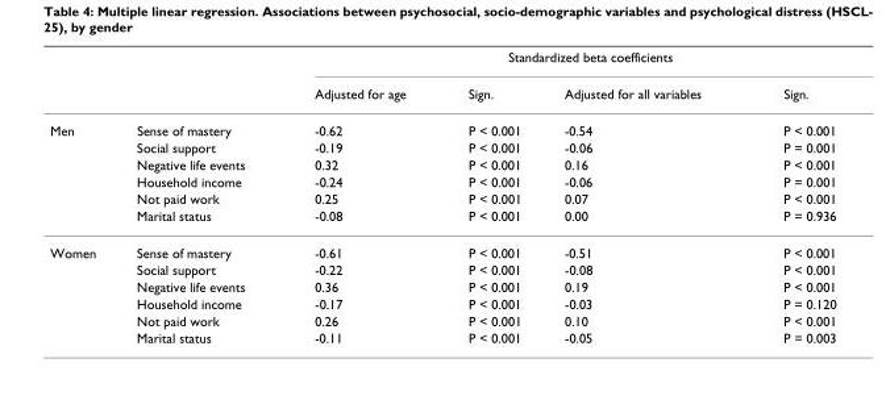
<table><thead><tr><td rowspan="2"></td><td rowspan="2"></td><td colspan="4">Standardized beta coefficients</td></tr><tr><td>Adjusted for age</td><td>Sign.</td><td>Adjusted for all variables</td><td>Sign.</td></tr></thead><tbody><tr><td rowspan="6">Men</td><td>Sense of mastery</td><td>-0.62</td><td>P &lt; 0.001</td><td>-0.54</td><td>P &lt; 0.001</td></tr><tr><td>Social support</td><td>-0.19</td><td>P &lt; 0.001</td><td>-0.06</td><td>P = 0.001</td></tr><tr><td>Negative life events</td><td>0.32</td><td>P &lt; 0.001</td><td>0.16</td><td>P &lt; 0.001</td></tr><tr><td>Household income</td><td>-0.24</td><td>P &lt; 0.001</td><td>-0.06</td><td>P = 0.001</td></tr><tr><td>Not paid work</td><td>0.25</td><td>P &lt; 0.001</td><td>0.07</td><td>P &lt; 0.001</td></tr><tr><td>Marital status</td><td>-0.08</td><td>P &lt; 0.001</td><td>0.00</td><td>P = 0.936</td></tr><tr><td rowspan="6">Women</td><td>Sense of mastery</td><td>-0.61</td><td>P &lt; 0.001</td><td>-0.51</td><td>P &lt; 0.001</td></tr><tr><td>Social support</td><td>-0.22</td><td>P &lt; 0.001</td><td>-0.08</td><td>P &lt; 0.001</td></tr><tr><td>Negative life events</td><td>0.36</td><td>P &lt; 0.001</td><td>0.19</td><td>P &lt; 0.001</td></tr><tr><td>Household income</td><td>-0.17</td><td>P &lt; 0.001</td><td>-0.03</td><td>P = 0.120</td></tr><tr><td>Not paid work</td><td>0.26</td><td>P &lt; 0.001</td><td>0.10</td><td>P &lt; 0.001</td></tr><tr><td>Marital status</td><td>-0.11</td><td>P &lt; 0.001</td><td>-0.05</td><td>P = 0.003</td></tr></tbody></table>